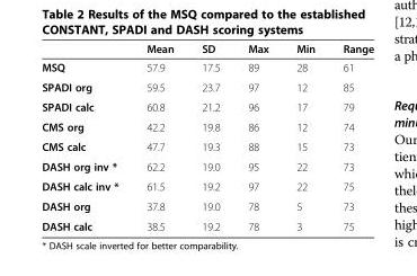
<table><thead><tr><td></td><td>Mean</td><td>SD</td><td>Max</td><td>Min</td><td>Range</td></tr></thead><tbody><tr><td>MSQ</td><td>57.9</td><td>17.5</td><td>89</td><td>28</td><td>61</td></tr><tr><td>SPADI org</td><td>59.5</td><td>23.7</td><td>97</td><td>12</td><td>85</td></tr><tr><td>SPADI calc</td><td>60.8</td><td>21.2</td><td>96</td><td>17</td><td>79</td></tr><tr><td>CMS org</td><td>42.2</td><td>19.8</td><td>86</td><td>12</td><td>74</td></tr><tr><td>CMS calc</td><td>47.7</td><td>19.3</td><td>88</td><td>15</td><td>73</td></tr><tr><td>DASH org inv *</td><td>62.2</td><td>19.0</td><td>95</td><td>22</td><td>73</td></tr><tr><td>DASH calc inv *</td><td>61.5</td><td>19.2</td><td>97</td><td>22</td><td>75</td></tr><tr><td>DASH org</td><td>37.8</td><td>19.0</td><td>78</td><td>5</td><td>73</td></tr><tr><td>DASH calc</td><td>38.5</td><td>19.2</td><td>78</td><td>3</td><td>75</td></tr></tbody></table>